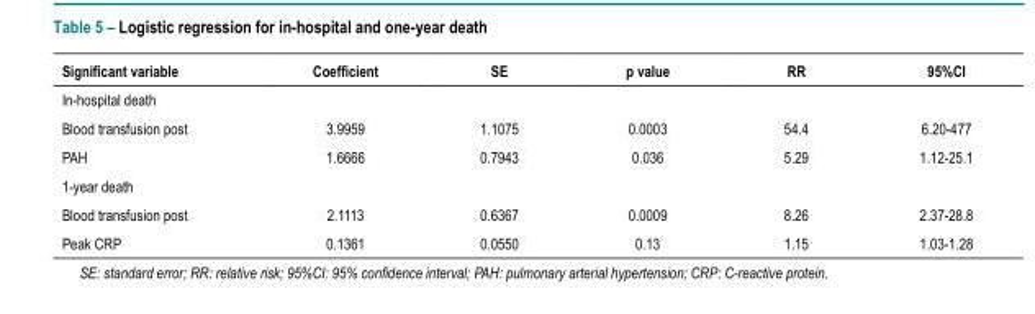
<table><thead><tr><td>Significant variable</td><td>Coefficient</td><td>SE</td><td>p value</td><td>RR</td><td>95%CI</td></tr></thead><tbody><tr><td colspan="6">In-hospital death</td></tr><tr><td>Blood transfusion post</td><td>3.9959</td><td>1.1075</td><td>0.0003</td><td>54.4</td><td>6.20-477</td></tr><tr><td>PAH</td><td>1.6666</td><td>0.7943</td><td>0.036</td><td>5.29</td><td>1.12-25.1</td></tr><tr><td colspan="6">1-year death</td></tr><tr><td>Blood transfusion post</td><td>2.1113</td><td>0.6367</td><td>0.0009</td><td>8.26</td><td>2.37-28.8</td></tr><tr><td>Peak CRP</td><td>0.1361</td><td>0.0550</td><td>0.13</td><td>1.15</td><td>1.03-1.28</td></tr></tbody></table>